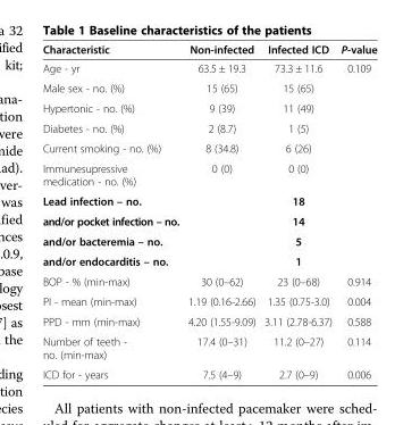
<table><thead><tr><td>Characteristic</td><td>Non-infected</td><td>Infected ICD</td><td>P-value</td></tr></thead><tbody><tr><td>Age - yr</td><td>63.5 ± 19.3</td><td>73.3 ± 11.6</td><td>0.109</td></tr><tr><td>Male sex - no. (%)</td><td>15 (65)</td><td>15 (65)</td><td></td></tr><tr><td>Hypertonic - no. (%)</td><td>9 (39)</td><td>11 (49)</td><td></td></tr><tr><td>Diabetes - no. (%)</td><td>2 (8.7)</td><td>1 (5)</td><td></td></tr><tr><td>Current smoking - no. (%)</td><td>8 (34.8)</td><td>6 (26)</td><td></td></tr><tr><td>Immunesupressive medication - no. (%)</td><td>0 (0)</td><td>0 (0)</td><td></td></tr><tr><td>Lead infection – no.</td><td></td><td>18</td><td></td></tr><tr><td>and/or pocket infection – no.</td><td></td><td>14</td><td></td></tr><tr><td>and/or bacteremia – no.</td><td></td><td>5</td><td></td></tr><tr><td>and/or endocarditis – no.</td><td></td><td>1</td><td></td></tr><tr><td>BOP - % (min-max)</td><td>30 (0–62)</td><td>23 (0–68)</td><td>0.914</td></tr><tr><td>PI - mean (min-max)</td><td>1.19 (0.16-2.66)</td><td>1.35 (0.75-3.0)</td><td>0.004</td></tr><tr><td>PPD - mm (min-max)</td><td>4.20 (1.55-9.09)</td><td>3.11 (2.78-6.37)</td><td>0.588</td></tr><tr><td>Number of teeth - no. (min-max)</td><td>17.4 (0–31)</td><td>11.2 (0–27)</td><td>0.114</td></tr><tr><td>ICD for - years</td><td>7.5 (4–9)</td><td>2.7 (0–9)</td><td>0.006</td></tr></tbody></table>